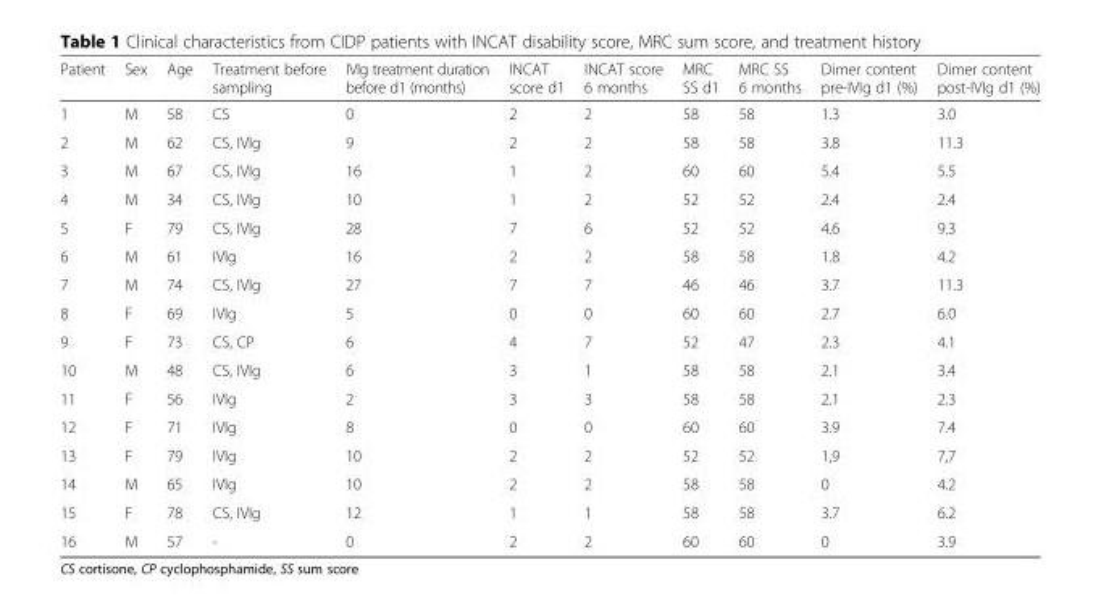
<table><thead><tr><td>Patient</td><td>Sex</td><td>Age</td><td>Treatment before sampling</td><td>IVIg treatment duration before d1 (months)</td><td>INCAT score d1</td><td>INCAT score 6 months</td><td>MRC SS d1</td><td>MRC SS 6 months</td><td>Dimer content pre-IVIg d1 (%)</td><td>Dimer content post-IVIg d1 (%)</td></tr></thead><tbody><tr><td>1</td><td>M</td><td>58</td><td>CS</td><td>0</td><td>2</td><td>2</td><td>58</td><td>58</td><td>1.3</td><td>3.0</td></tr><tr><td>2</td><td>M</td><td>62</td><td>CS, IVIg</td><td>9</td><td>2</td><td>2</td><td>58</td><td>58</td><td>3.8</td><td>11.3</td></tr><tr><td>3</td><td>M</td><td>67</td><td>CS, IVIg</td><td>16</td><td>1</td><td>2</td><td>60</td><td>60</td><td>5.4</td><td>5.5</td></tr><tr><td>4</td><td>M</td><td>34</td><td>CS, IVIg</td><td>10</td><td>1</td><td>2</td><td>52</td><td>52</td><td>2.4</td><td>2.4</td></tr><tr><td>5</td><td>F</td><td>79</td><td>CS, IVIg</td><td>28</td><td>7</td><td>6</td><td>52</td><td>52</td><td>4.6</td><td>9.3</td></tr><tr><td>6</td><td>M</td><td>61</td><td>IVIg</td><td>16</td><td>2</td><td>2</td><td>58</td><td>58</td><td>1.8</td><td>4.2</td></tr><tr><td>7</td><td>M</td><td>74</td><td>CS, IVIg</td><td>27</td><td>7</td><td>7</td><td>46</td><td>46</td><td>3.7</td><td>11.3</td></tr><tr><td>8</td><td>F</td><td>69</td><td>IVIg</td><td>5</td><td>0</td><td>0</td><td>60</td><td>60</td><td>2.7</td><td>6.0</td></tr><tr><td>9</td><td>F</td><td>73</td><td>CS, CP</td><td>6</td><td>4</td><td>7</td><td>52</td><td>47</td><td>2.3</td><td>4.1</td></tr><tr><td>10</td><td>M</td><td>48</td><td>CS, IVIg</td><td>6</td><td>3</td><td>1</td><td>58</td><td>58</td><td>2.1</td><td>3.4</td></tr><tr><td>11</td><td>F</td><td>56</td><td>IVIg</td><td>2</td><td>3</td><td>3</td><td>58</td><td>58</td><td>2.1</td><td>2.3</td></tr><tr><td>12</td><td>F</td><td>71</td><td>IVIg</td><td>8</td><td>0</td><td>0</td><td>60</td><td>60</td><td>3.9</td><td>7.4</td></tr><tr><td>13</td><td>F</td><td>79</td><td>IVIg</td><td>10</td><td>2</td><td>2</td><td>52</td><td>52</td><td>1,9</td><td>7,7</td></tr><tr><td>14</td><td>M</td><td>65</td><td>IVIg</td><td>10</td><td>2</td><td>2</td><td>58</td><td>58</td><td>0</td><td>4.2</td></tr><tr><td>15</td><td>F</td><td>78</td><td>CS, IVIg</td><td>12</td><td>1</td><td>1</td><td>58</td><td>58</td><td>3.7</td><td>6.2</td></tr><tr><td>16</td><td>M</td><td>57</td><td>-</td><td>0</td><td>2</td><td>2</td><td>60</td><td>60</td><td>0</td><td>3.9</td></tr></tbody></table>